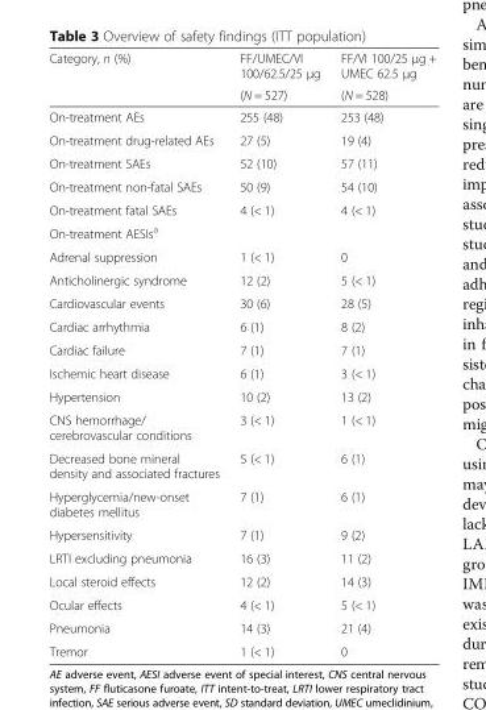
<table><thead><tr><td rowspan="2">Category, n (%)</td><td rowspan="2">FF/UMEC/VI 100/62.5/25 μg (N = 527)</td><td rowspan="2">FF/VI 100/25 μg + UMEC 62.5 μg (N = 528)</td></tr><tr></tr></thead><tbody><tr><td>On-treatment AEs</td><td>255 (48)</td><td>253 (48)</td></tr><tr><td>On-treatment drug-related AEs</td><td>27 (5)</td><td>19 (4)</td></tr><tr><td>On-treatment SAEs</td><td>52 (10)</td><td>57 (11)</td></tr><tr><td>On-treatment non-fatal SAEs</td><td>50 (9)</td><td>54 (10)</td></tr><tr><td>On-treatment fatal SAEs</td><td>4 (&lt; 1)</td><td>4 (&lt; 1)</td></tr><tr><td colspan="3">On-treatment AESIs<sup>a</sup></td></tr><tr><td>Adrenal suppression</td><td>1 (&lt; 1)</td><td>0</td></tr><tr><td>Anticholinergic syndrome</td><td>12 (2)</td><td>5 (&lt; 1)</td></tr><tr><td>Cardiovascular events</td><td>30 (6)</td><td>28 (5)</td></tr><tr><td>Cardiac arrhythmia</td><td>6 (1)</td><td>8 (2)</td></tr><tr><td>Cardiac failure</td><td>7 (1)</td><td>7 (1)</td></tr><tr><td>Ischemic heart disease</td><td>6 (1)</td><td>3 (&lt; 1)</td></tr><tr><td>Hypertension</td><td>10 (2)</td><td>13 (2)</td></tr><tr><td>CNS hemorrhage/ cerebrovascular conditions</td><td>3 (&lt; 1)</td><td>1 (&lt; 1)</td></tr><tr><td>Decreased bone mineral density and associated fractures</td><td>5 (&lt; 1)</td><td>6 (1)</td></tr><tr><td>Hyperglycemia/new-onset diabetes mellitus</td><td>7 (1)</td><td>6 (1)</td></tr><tr><td>Hypersensitivity</td><td>7 (1)</td><td>9 (2)</td></tr><tr><td>LRTI excluding pneumonia</td><td>16 (3)</td><td>11 (2)</td></tr><tr><td>Local steroid effects</td><td>12 (2)</td><td>14 (3)</td></tr><tr><td>Ocular effects</td><td>4 (&lt; 1)</td><td>5 (&lt; 1)</td></tr><tr><td>Pneumonia</td><td>14 (3)</td><td>21 (4)</td></tr><tr><td>Tremor</td><td>1 (&lt; 1)</td><td>0</td></tr></tbody></table>